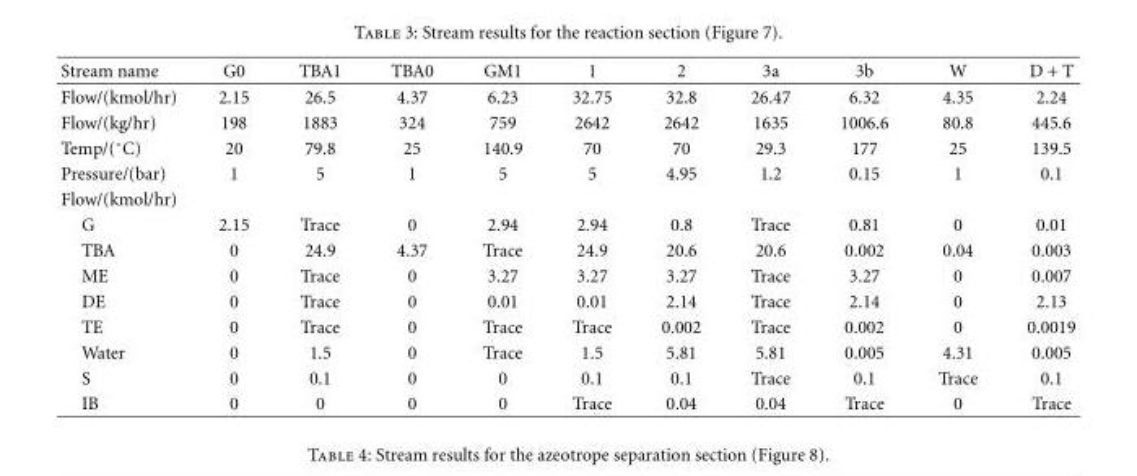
<table><thead><tr><td>Stream name</td><td>G0</td><td>TBA1</td><td>TBA0</td><td>GM1</td><td>1</td><td>2</td><td>3a</td><td>3b</td><td>W</td><td>D + T</td></tr></thead><tbody><tr><td>Flow/(kmol/hr)</td><td>2.15</td><td>26.5</td><td>4.37</td><td>6.23</td><td>32.75</td><td>32.8</td><td>26.47</td><td>6.32</td><td>4.35</td><td>2.24</td></tr><tr><td>Flow/(kg/hr)</td><td>198</td><td>1883</td><td>324</td><td>759</td><td>2642</td><td>2642</td><td>1635</td><td>1006.6</td><td>80.8</td><td>445.6</td></tr><tr><td>Temp/(◦C)</td><td>20</td><td>79.8</td><td>25</td><td>140.9</td><td>70</td><td>70</td><td>29.3</td><td>177</td><td>25</td><td>139.5</td></tr><tr><td>Pressure/(bar)</td><td>1</td><td>5</td><td>1</td><td>5</td><td>5</td><td>4.95</td><td>1.2</td><td>0.15</td><td>1</td><td>0.1</td></tr><tr><td colspan="11">Flow/(kmol/hr)</td></tr><tr><td>G</td><td>2.15</td><td>Trace</td><td>0</td><td>2.94</td><td>2.94</td><td>0.8</td><td>Trace</td><td>0.81</td><td>0</td><td>0.01</td></tr><tr><td>TBA</td><td>0</td><td>24.9</td><td>4.37</td><td>Trace</td><td>24.9</td><td>20.6</td><td>20.6</td><td>0.002</td><td>0.04</td><td>0.003</td></tr><tr><td>ME</td><td>0</td><td>Trace</td><td>0</td><td>3.27</td><td>3.27</td><td>3.27</td><td>Trace</td><td>3.27</td><td>0</td><td>0.007</td></tr><tr><td>DE</td><td>0</td><td>Trace</td><td>0</td><td>0.01</td><td>0.01</td><td>2.14</td><td>Trace</td><td>2.14</td><td>0</td><td>2.13</td></tr><tr><td>TE</td><td>0</td><td>Trace</td><td>0</td><td>Trace</td><td>Trace</td><td>0.002</td><td>Trace</td><td>0.002</td><td>0</td><td>0.0019</td></tr><tr><td>Water</td><td>0</td><td>1.5</td><td>0</td><td>Trace</td><td>1.5</td><td>5.81</td><td>5.81</td><td>0.005</td><td>4.31</td><td>0.005</td></tr><tr><td>S</td><td>0</td><td>0.1</td><td>0</td><td>0</td><td>0.1</td><td>0.1</td><td>Trace</td><td>0.1</td><td>Trace</td><td>0.1</td></tr><tr><td>IB</td><td>0</td><td>0</td><td>0</td><td>0</td><td>Trace</td><td>0.04</td><td>0.04</td><td>Trace</td><td>0</td><td>Trace</td></tr></tbody></table>